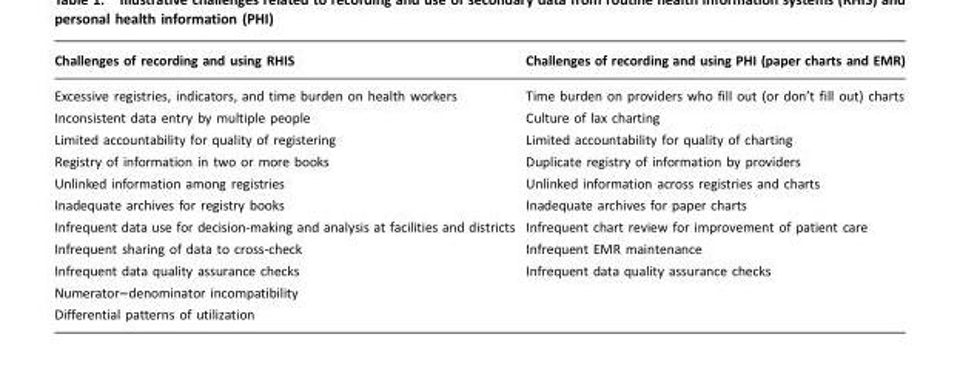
<table><thead><tr><td>Challenges of recording and using RHIS</td><td>Challenges of recording and using PHI (paper charts and EMR)</td></tr></thead><tbody><tr><td>Excessive registries, indicators, and time burden on health workers Inconsistent data entry by multiple people Limited accountability for quality of registering Registry of information in two or more books Unlinked information among registries Inadequate archives for registry books Infrequent data use for decision-making and analysis at facilities and districts Infrequent sharing of data to cross-check Infrequent data quality assurance checks Numerator–denominator incompatibility Differential patterns of utilization</td><td>Time burden on providers who fill out (or don’t fill out) charts Culture of lax charting Limited accountability for quality of charting Duplicate registry of information by providers Unlinked information across registries and charts Inadequate archives for paper charts Infrequent chart review for improvement of patient care Infrequent EMR maintenance Infrequent data quality assurance checks</td></tr></tbody></table>